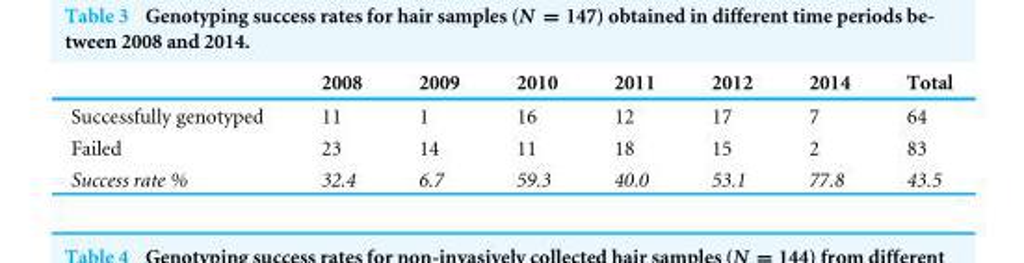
<table><thead><tr><td></td><td>2008</td><td>2009</td><td>2010</td><td>2011</td><td>2012</td><td>2014</td><td>Total</td></tr></thead><tbody><tr><td>Successfully genotyped</td><td>11</td><td>1</td><td>16</td><td>12</td><td>17</td><td>7</td><td>64</td></tr><tr><td>Failed</td><td>23</td><td>14</td><td>11</td><td>18</td><td>15</td><td>2</td><td>83</td></tr><tr><td>Success rate %</td><td>32.4</td><td>6.7</td><td>59.3</td><td>40.0</td><td>53.1</td><td>77.8</td><td>43.5</td></tr></tbody></table>